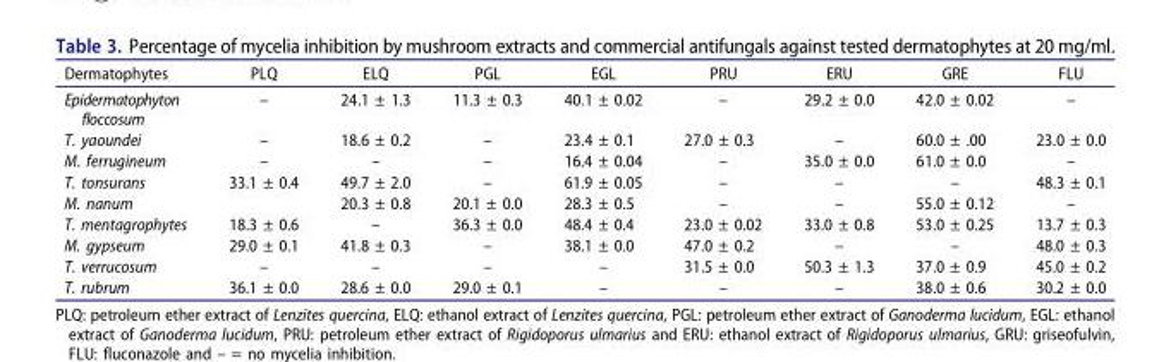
<table><thead><tr><td>Dermatophytes</td><td>PLQ</td><td>ELQ</td><td>PGL</td><td>EGL</td><td>PRU</td><td>ERU</td><td>GRE</td><td>FLU</td></tr></thead><tbody><tr><td>Epidermatophyton floccosum</td><td>–</td><td>24.1 ± 1.3</td><td>11.3 ± 0.3</td><td>40.1 ± 0.02</td><td>–</td><td>29.2 ± 0.0</td><td>42.0 ± 0.02</td><td>–</td></tr><tr><td>T. yaoundei</td><td>–</td><td>18.6 ± 0.2</td><td>–</td><td>23.4 ± 0.1</td><td>27.0 ± 0.3</td><td>–</td><td>60.0 ± .00</td><td>23.0 ± 0.0</td></tr><tr><td>M. ferrugineum</td><td>–</td><td>–</td><td>–</td><td>16.4 ± 0.04</td><td>–</td><td>35.0 ± 0.0</td><td>61.0 ± 0.0</td><td>–</td></tr><tr><td>T. tonsurans</td><td>33.1 ± 0.4</td><td>49.7 ± 2.0</td><td>–</td><td>61.9 ± 0.05</td><td>–</td><td>–</td><td>–</td><td>48.3 ± 0.1</td></tr><tr><td>M. nanum</td><td></td><td>20.3 ± 0.8</td><td>20.1 ± 0.0</td><td>28.3 ± 0.5</td><td>–</td><td>–</td><td>55.0 ± 0.12</td><td>–</td></tr><tr><td>T. mentagrophytes</td><td>18.3 ± 0.6</td><td>–</td><td>36.3 ± 0.0</td><td>48.4 ± 0.4</td><td>23.0 ± 0.02</td><td>33.0 ± 0.8</td><td>53.0 ± 0.25</td><td>13.7 ± 0.3</td></tr><tr><td>M. gypseum</td><td>29.0 ± 0.1</td><td>41.8 ± 0.3</td><td>–</td><td>38.1 ± 0.0</td><td>47.0 ± 0.2</td><td>–</td><td>–</td><td>48.0 ± 0.3</td></tr><tr><td>T. verrucosum</td><td>–</td><td>–</td><td>–</td><td>–</td><td>31.5 ± 0.0</td><td>50.3 ± 1.3</td><td>37.0 ± 0.9</td><td>45.0 ± 0.2</td></tr><tr><td>T. rubrum</td><td>36.1 ± 0.0</td><td>28.6 ± 0.0</td><td>29.0 ± 0.1</td><td>–</td><td>–</td><td>–</td><td>38.0 ± 0.6</td><td>30.2 ± 0.0</td></tr></tbody></table>